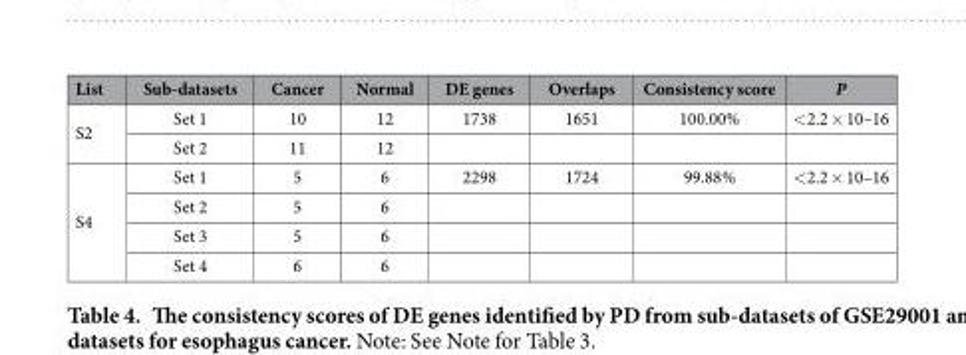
<table><thead><tr><td>List</td><td>Sub-datasets</td><td>Cancer</td><td>Normal</td><td>DE genes</td><td>Overlaps</td><td>Consistency score</td><td>P</td></tr></thead><tbody><tr><td rowspan="2">S2</td><td>Set 1</td><td>10</td><td>12</td><td>1738</td><td>1651</td><td>100.00%</td><td>&lt; 2.2 × 10–16</td></tr><tr><td>Set 2</td><td>11</td><td>12</td><td></td><td></td><td></td><td></td></tr><tr><td rowspan="4">S4</td><td>Set 1</td><td>5</td><td>6</td><td>2298</td><td>1724</td><td>99.88%</td><td>&lt; 2.2 × 10–16</td></tr><tr><td>Set 2</td><td>5</td><td>6</td><td></td><td></td><td></td><td></td></tr><tr><td>Set 3</td><td>5</td><td>6</td><td></td><td></td><td></td><td></td></tr><tr><td>Set 4</td><td>6</td><td>6</td><td></td><td></td><td></td><td></td></tr></tbody></table>